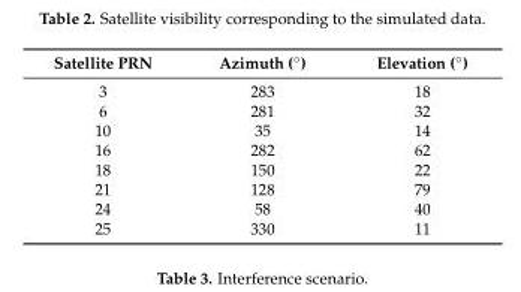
<table><thead><tr><td>Satellite PRN</td><td>Azimuth (◦)</td><td>Elevation (◦)</td></tr></thead><tbody><tr><td>3</td><td>283</td><td>18</td></tr><tr><td>6</td><td>281</td><td>32</td></tr><tr><td>10</td><td>35</td><td>14</td></tr><tr><td>16</td><td>282</td><td>62</td></tr><tr><td>18</td><td>150</td><td>22</td></tr><tr><td>21</td><td>128</td><td>79</td></tr><tr><td>24</td><td>58</td><td>40</td></tr><tr><td>25</td><td>330</td><td>11</td></tr></tbody></table>